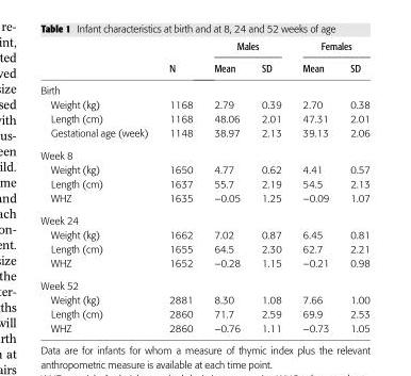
<table><thead><tr><td rowspan="2"></td><td rowspan="2">N</td><td colspan="2">Males</td><td colspan="2">Females</td></tr><tr><td>Mean</td><td>SD</td><td>Mean</td><td>SD</td></tr></thead><tbody><tr><td colspan="6">Birth</td></tr><tr><td>Weight (kg)</td><td>1168</td><td>2.79</td><td>0.39</td><td>2.70</td><td>0.38</td></tr><tr><td>Length (cm)</td><td>1168</td><td>48.06</td><td>2.01</td><td>47.31</td><td>2.01</td></tr><tr><td>Gestational age (week)</td><td>1148</td><td>38.97</td><td>2.13</td><td>39.13</td><td>2.06</td></tr><tr><td colspan="6">Week 8</td></tr><tr><td>Weight (kg)</td><td>1650</td><td>4.77</td><td>0.62</td><td>4.41</td><td>0.57</td></tr><tr><td>Length (cm)</td><td>1637</td><td>55.7</td><td>2.19</td><td>54.5</td><td>2.13</td></tr><tr><td>WHZ</td><td>1635</td><td>−0.05</td><td>1.25</td><td>−0.09</td><td>1.07</td></tr><tr><td colspan="6">Week 24</td></tr><tr><td>Weight (kg)</td><td>1662</td><td>7.02</td><td>0.87</td><td>6.45</td><td>0.81</td></tr><tr><td>Length (cm)</td><td>1655</td><td>64.5</td><td>2.30</td><td>62.7</td><td>2.21</td></tr><tr><td>WHZ</td><td>1652</td><td>−0.28</td><td>1.15</td><td>−0.21</td><td>0.98</td></tr><tr><td colspan="6">Week 52</td></tr><tr><td>Weight (kg)</td><td>2881</td><td>8.30</td><td>1.08</td><td>7.66</td><td>1.00</td></tr><tr><td>Length (cm)</td><td>2860</td><td>71.7</td><td>2.59</td><td>69.9</td><td>2.53</td></tr><tr><td>WHZ</td><td>2860</td><td>−0.76</td><td>1.11</td><td>−0.73</td><td>1.05</td></tr></tbody></table>